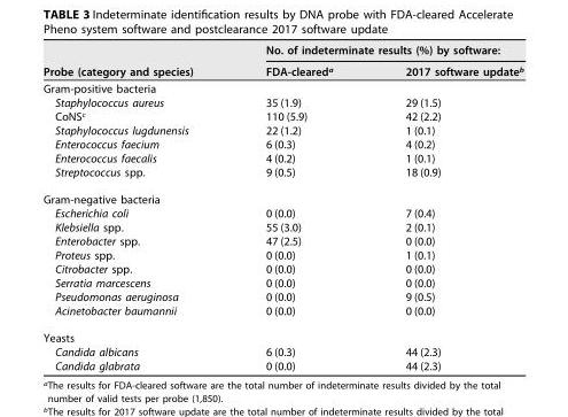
<table><thead><tr><td rowspan="2">Probe (category and species)</td><td colspan="2">No. of indeterminate results (%) by software:</td></tr><tr><td>FDA-cleared<sup>a</sup></td><td>2017 software update<sup>b</sup></td></tr></thead><tbody><tr><td colspan="3">Gram-positive bacteria</td></tr><tr><td>Staphylococcus aureus</td><td>35 (1.9)</td><td>29 (1.5)</td></tr><tr><td>CoNS<sup>c</sup></td><td>110 (5.9)</td><td>42 (2.2)</td></tr><tr><td>Staphylococcus lugdunensis</td><td>22 (1.2)</td><td>1 (0.1)</td></tr><tr><td>Enterococcus faecium</td><td>6 (0.3)</td><td>4 (0.2)</td></tr><tr><td>Enterococcus faecalis</td><td>4 (0.2)</td><td>1 (0.1)</td></tr><tr><td>Streptococcus spp.</td><td>9 (0.5)</td><td>18 (0.9)</td></tr><tr><td colspan="3">Gram-negative bacteria</td></tr><tr><td>Escherichia coli</td><td>0 (0.0)</td><td>7 (0.4)</td></tr><tr><td>Klebsiella spp.</td><td>55 (3.0)</td><td>2 (0.1)</td></tr><tr><td>Enterobacter spp.</td><td>47 (2.5)</td><td>0 (0.0)</td></tr><tr><td>Proteus spp.</td><td>0 (0.0)</td><td>1 (0.1)</td></tr><tr><td>Citrobacter spp.</td><td>0 (0.0)</td><td>0 (0.0)</td></tr><tr><td>Serratia marcescens</td><td>0 (0.0)</td><td>0 (0.0)</td></tr><tr><td>Pseudomonas aeruginosa</td><td>0 (0.0)</td><td>9 (0.5)</td></tr><tr><td>Acinetobacter baumannii</td><td>0 (0.0)</td><td>0 (0.0)</td></tr><tr><td colspan="3">Yeasts</td></tr><tr><td>Candida albicans</td><td>6 (0.3)</td><td>44 (2.3)</td></tr><tr><td>Candida glabrata</td><td>0 (0.0)</td><td>44 (2.3)</td></tr></tbody></table>